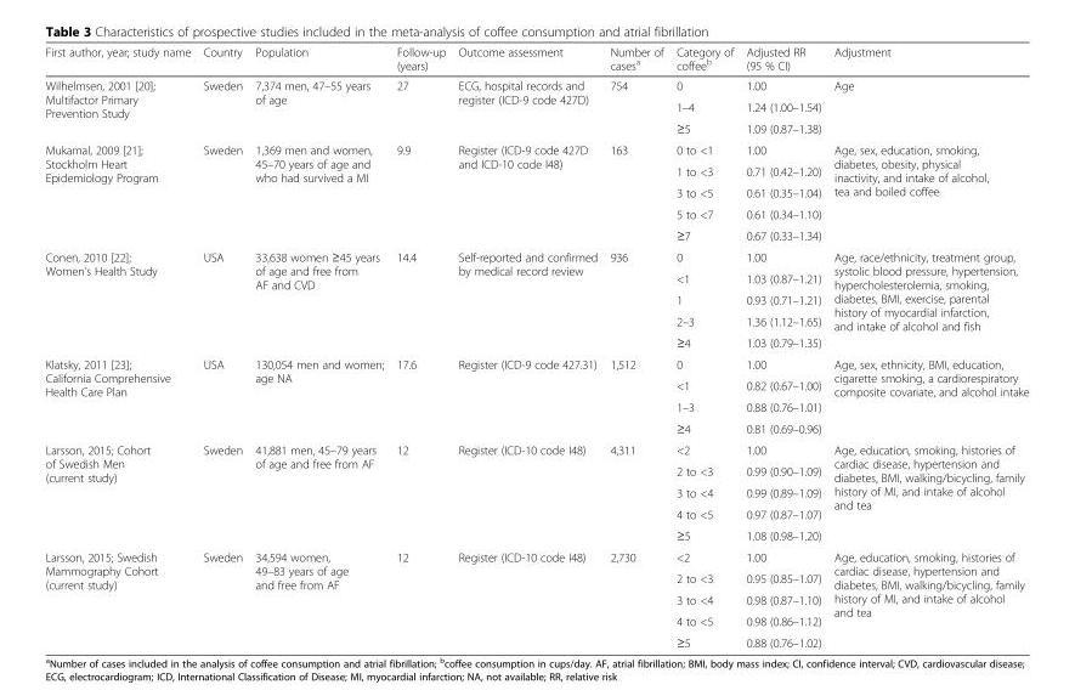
<table><thead><tr><td>First author, year; study name</td><td>Country</td><td>Population</td><td>Follow-up (years)</td><td>Outcome assessment</td><td>Number of cases<sup>a</sup></td><td>Category of coffee<sup>b</sup></td><td>Adjusted RR (95 % CI)</td><td>Adjustment</td></tr></thead><tbody><tr><td rowspan="3">Wilhelmsen, 2001 [20]; Multifactor Primary Prevention Study</td><td rowspan="3">Sweden</td><td rowspan="3">7,374 men, 47–55 years of age</td><td rowspan="3">27</td><td rowspan="3">ECG, hospital records and register (ICD-9 code 427D)</td><td rowspan="3">754</td><td>0</td><td>1.00</td><td rowspan="3">Age</td></tr><tr><td>1–4</td><td>1.24 (1.00–1.54)</td></tr><tr><td>≥5</td><td>1.09 (0.87–1.38)</td></tr><tr><td rowspan="5">Mukamal, 2009 [21]; Stockholm Heart Epidemiology Program</td><td rowspan="5">Sweden</td><td rowspan="5">1,369 men and women, 45–70 years of age and who had survived a MI</td><td rowspan="5">9.9</td><td rowspan="5">Register (ICD-9 code 427D and ICD-10 code I48)</td><td rowspan="5">163</td><td>0 to &lt;1</td><td>1.00</td><td rowspan="5">Age, sex, education, smoking, diabetes, obesity, physical inactivity, and intake of alcohol, tea and boiled coffee</td></tr><tr><td>1 to &lt;3</td><td>0.71 (0.42–1.20)</td></tr><tr><td>3 to &lt;5</td><td>0.61 (0.35–1.04)</td></tr><tr><td>5 to &lt;7</td><td>0.61 (0.34–1.10)</td></tr><tr><td>≥7</td><td>0.67 (0.33–1.34)</td></tr><tr><td rowspan="5">Conen, 2010 [22]; Women’s Health Study</td><td rowspan="5">USA</td><td rowspan="5">33,638 women ≥45 years of age and free from AF and CVD</td><td rowspan="5">14.4</td><td rowspan="5">Self-reported and confirmed by medical record review</td><td rowspan="5">936</td><td>0</td><td>1.00</td><td rowspan="5">Age, race/ethnicity, treatment group, systolic blood pressure, hypertension, hypercholesterolemia, smoking, diabetes, BMI, exercise, parental history of myocardial infarction, and intake of alcohol and fish</td></tr><tr><td>&lt;1</td><td>1.03 (0.87–1.21)</td></tr><tr><td>1</td><td>0.93 (0.71–1.21)</td></tr><tr><td>2–3</td><td>1.36 (1.12–1.65)</td></tr><tr><td>≥4</td><td>1.03 (0.79–1.35)</td></tr><tr><td rowspan="4">Klatsky, 2011 [23]; California Comprehensive Health Care Plan</td><td rowspan="4">USA</td><td rowspan="4">130,054 men and women; age NA</td><td rowspan="4">17.6</td><td rowspan="4">Register (ICD-9 code 427.31)</td><td rowspan="4">1,512</td><td>0</td><td>1.00</td><td rowspan="4">Age, sex, ethnicity, BMI, education, cigarette smoking, a cardiorespiratory composite covariate, and alcohol intake</td></tr><tr><td>&lt;1</td><td>0.82 (0.67–1.00)</td></tr><tr><td>1–3</td><td>0.88 (0.76–1.01)</td></tr><tr><td>≥4</td><td>0.81 (0.69–0.96)</td></tr><tr><td rowspan="5">Larsson, 2015; Cohort of Swedish Men (current study)</td><td rowspan="5">Sweden</td><td rowspan="5">41,881 men, 45–79 years of age and free from AF</td><td rowspan="5">12</td><td rowspan="5">Register (ICD-10 code I48)</td><td rowspan="5">4,311</td><td>&lt;2</td><td>1.00</td><td rowspan="5">Age, education, smoking, histories of cardiac disease, hypertension and diabetes, BMI, walking/bicycling, family history of MI, and intake of alcohol and tea</td></tr><tr><td>2 to &lt;3</td><td>0.99 (0.90–1.09)</td></tr><tr><td>3 to &lt;4</td><td>0.99 (0.89–1.09)</td></tr><tr><td>4 to &lt;5</td><td>0.97 (0.87–1.07)</td></tr><tr><td>≥5</td><td>1.08 (0.98–1.20)</td></tr><tr><td rowspan="5">Larsson, 2015; Swedish Mammography Cohort (current study)</td><td rowspan="5">Sweden</td><td rowspan="5">34,594 women, 49–83 years of age and free from AF</td><td rowspan="5">12</td><td rowspan="5">Register (ICD-10 code I48)</td><td rowspan="5">2,730</td><td>&lt;2</td><td>1.00</td><td rowspan="5">Age, education, smoking, histories of cardiac disease, hypertension and diabetes, BMI, walking/bicycling, family history of MI, and intake of alcohol and tea</td></tr><tr><td>2 to &lt;3</td><td>0.95 (0.85–1.07)</td></tr><tr><td>3 to &lt;4</td><td>0.98 (0.87–1.10)</td></tr><tr><td>4 to &lt;5</td><td>0.98 (0.86–1.12)</td></tr><tr><td>≥5</td><td>0.88 (0.76–1.02)</td></tr></tbody></table>